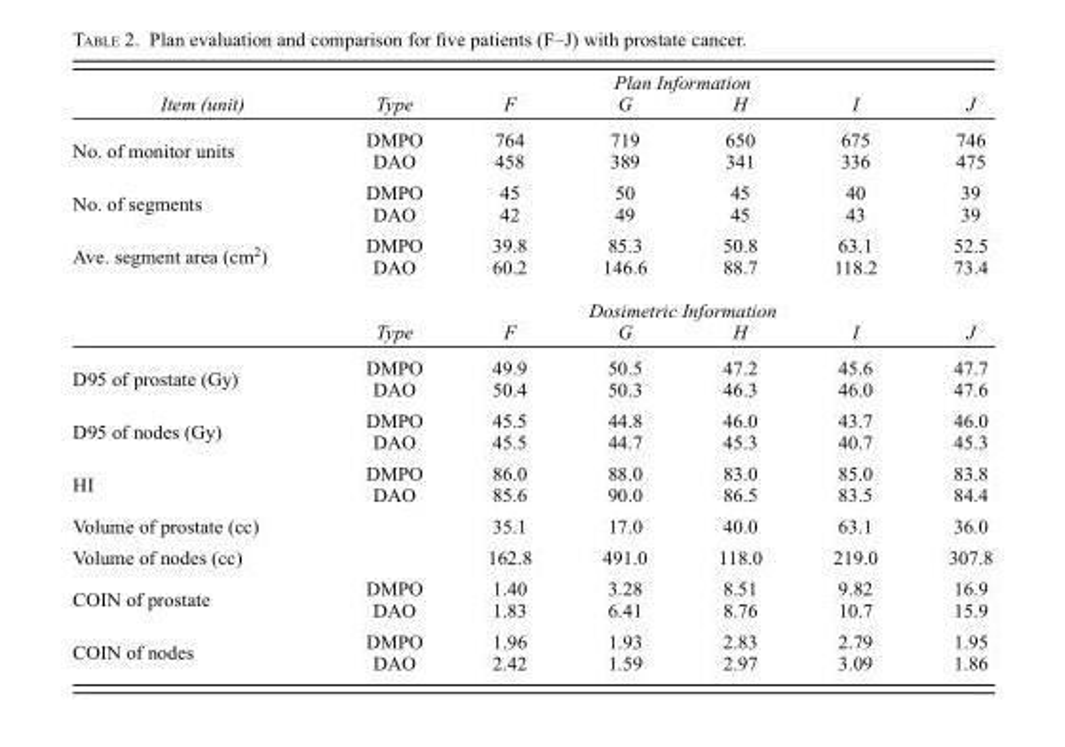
<table><thead><tr><td rowspan="2">Item (unit)</td><td colspan="6">Plan Information</td></tr><tr><td>Type</td><td>F</td><td>G</td><td>H</td><td>I</td><td>J</td></tr></thead><tbody><tr><td rowspan="2">No. of monitor units</td><td>DMPO</td><td>764</td><td>719</td><td>650</td><td>675</td><td>746</td></tr><tr><td>DAO</td><td>458</td><td>389</td><td>341</td><td>336</td><td>475</td></tr><tr><td rowspan="2">No. of segments</td><td>DMPO</td><td>45</td><td>50</td><td>45</td><td>40</td><td>39</td></tr><tr><td>DAO</td><td>42</td><td>49</td><td>45</td><td>43</td><td>39</td></tr><tr><td rowspan="4">Ave. segment area (cm<sup>2</sup>)</td><td>DMPO</td><td>39.8</td><td>85.3</td><td>50.8</td><td>63.1</td><td>52.5</td></tr><tr><td>DAO</td><td>60.2</td><td>146.6</td><td>88.7</td><td>118.2</td><td>73.4</td></tr><tr><td colspan="6">Dosimetric Information</td></tr><tr><td>Type</td><td>F</td><td>G</td><td>H</td><td>I</td><td>J</td></tr><tr><td rowspan="2">D95 of prostate (Gy)</td><td>DMPO</td><td>49.9</td><td>50.5</td><td>47.2</td><td>45.6</td><td>47.7</td></tr><tr><td>DAO</td><td>50.4</td><td>50.3</td><td>46.3</td><td>46.0</td><td>47.6</td></tr><tr><td rowspan="2">D95 of nodes (Gy)</td><td>DMPO</td><td>45.5</td><td>44.8</td><td>46.0</td><td>43.7</td><td>46.0</td></tr><tr><td>DAO</td><td>45.5</td><td>44.7</td><td>45.3</td><td>40.7</td><td>45.3</td></tr><tr><td rowspan="2">HI</td><td>DMPO</td><td>86.0</td><td>88.0</td><td>83.0</td><td>85.0</td><td>83.8</td></tr><tr><td>DAO</td><td>85.6</td><td>90.0</td><td>86.5</td><td>83.5</td><td>84.4</td></tr><tr><td>Volume of prostate (cc)</td><td></td><td>35.1</td><td>17.0</td><td>40.0</td><td>63.1</td><td>36.0</td></tr><tr><td>Volume of nodes (cc)</td><td></td><td>162.8</td><td>491.0</td><td>118.0</td><td>219.0</td><td>307.8</td></tr><tr><td rowspan="2">COIN of prostate</td><td>DMPO</td><td>1.40</td><td>3.28</td><td>8.51</td><td>9.82</td><td>16.9</td></tr><tr><td>DAO</td><td>1.83</td><td>6.41</td><td>8.76</td><td>10.7</td><td>15.9</td></tr><tr><td rowspan="2">COIN of nodes</td><td>DMPO</td><td>1.96</td><td>1.93</td><td>2.83</td><td>2.79</td><td>1.95</td></tr><tr><td>DAO</td><td>2.42</td><td>1.59</td><td>2.97</td><td>3.09</td><td>1.86</td></tr></tbody></table>